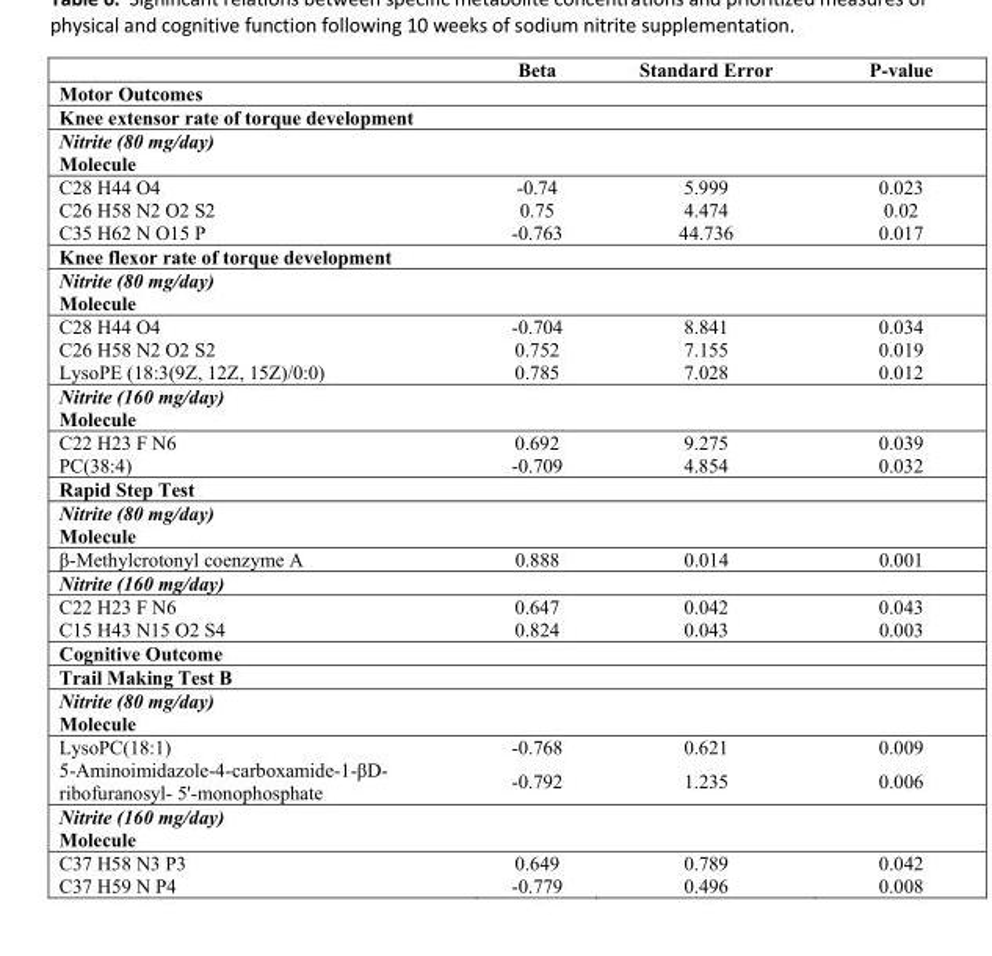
<table><thead><tr><td></td><td>Beta</td><td>Standard Error</td><td>P-value</td></tr></thead><tbody><tr><td colspan="4">Motor Outcomes</td></tr><tr><td colspan="4">Knee extensor rate of torque development</td></tr><tr><td colspan="4">Nitrite (80 mg/day) Molecule</td></tr><tr><td>C28 H44 O4</td><td>-0.74</td><td>5.999</td><td>0.023</td></tr><tr><td>C26 H58 N2 O2 S2</td><td>0.75</td><td>4.474</td><td>0.02</td></tr><tr><td>C35 H62 N O15 P</td><td>-0.763</td><td>44.736</td><td>0.017</td></tr><tr><td colspan="4">Knee flexor rate of torque development</td></tr><tr><td colspan="4">Nitrite (80 mg/day) Molecule</td></tr><tr><td>C28 H44 O4</td><td>-0.704</td><td>8.841</td><td>0.034</td></tr><tr><td>C26 H58 N2 O2 S2</td><td>0.752</td><td>7.155</td><td>0.019</td></tr><tr><td>LysoPE (18:3(9Z, 12Z, 15Z)/0:0)</td><td>0.785</td><td>7.028</td><td>0.012</td></tr><tr><td colspan="4">Nitrite (160 mg/day) Molecule</td></tr><tr><td>C22 H23 F N6</td><td>0.692</td><td>9.275</td><td>0.039</td></tr><tr><td>PC(38:4)</td><td>-0.709</td><td>4.854</td><td>0.032</td></tr><tr><td colspan="4">Rapid Step Test</td></tr><tr><td colspan="4">Nitrite (80 mg/day) Molecule</td></tr><tr><td>β-Methylcrotonyl coenzyme A</td><td>0.888</td><td>0.014</td><td>0.001</td></tr><tr><td colspan="4">Nitrite (160 mg/day)</td></tr><tr><td>C22 H23 F N6</td><td>0.647</td><td>0.042</td><td>0.043</td></tr><tr><td>C15 H43 N15 O2 S4</td><td>0.824</td><td>0.043</td><td>0.003</td></tr><tr><td colspan="4">Cognitive Outcome</td></tr><tr><td colspan="4">Trail Making Test B</td></tr><tr><td colspan="4">Nitrite (80 mg/day) Molecule</td></tr><tr><td>LysoPC(18:1)</td><td>-0.768</td><td>0.621</td><td>0.009</td></tr><tr><td>5-Aminoimidazole-4-carboxamide-1-βD- ribofuranosyl- 5&#x27;-monophosphate</td><td>-0.792</td><td>1.235</td><td>0.006</td></tr><tr><td colspan="4">Nitrite (160 mg/day) Molecule</td></tr><tr><td>C37 H58 N3 P3</td><td>0.649</td><td>0.789</td><td>0.042</td></tr><tr><td>C37 H59 N P4</td><td>-0.779</td><td>0.496</td><td>0.008</td></tr></tbody></table>